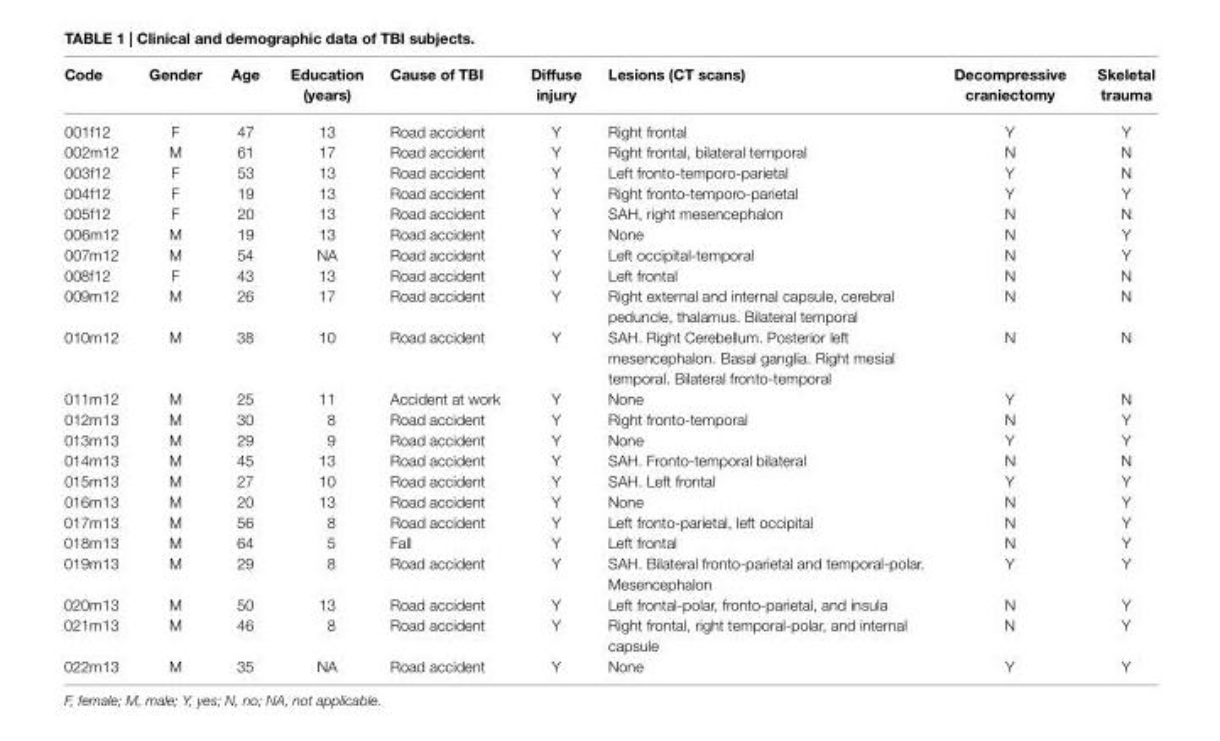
<table><thead><tr><td>code</td><td>gender</td><td>age</td><td>education (years)</td><td>cause of TBi</td><td>Diffuse injury</td><td>lesions (cT scans)</td><td>Decompressive craniectomy</td><td>skeletal trauma</td></tr></thead><tbody><tr><td>001f12</td><td>F</td><td>47</td><td>13</td><td>Road accident</td><td>Y</td><td>Right frontal</td><td>Y</td><td>Y</td></tr><tr><td>002m12</td><td>M</td><td>61</td><td>17</td><td>Road accident</td><td>Y</td><td>Right frontal, bilateral temporal</td><td>N</td><td>N</td></tr><tr><td>003f12</td><td>F</td><td>53</td><td>13</td><td>Road accident</td><td>Y</td><td>Left fronto-temporo-parietal</td><td>Y</td><td>N</td></tr><tr><td>004f12</td><td>F</td><td>19</td><td>13</td><td>Road accident</td><td>Y</td><td>Right fronto-temporo-parietal</td><td>Y</td><td>Y</td></tr><tr><td>005f12</td><td>F</td><td>20</td><td>13</td><td>Road accident</td><td>Y</td><td>SAH, right mesencephalon</td><td>N</td><td>N</td></tr><tr><td>006m12</td><td>M</td><td>19</td><td>13</td><td>Road accident</td><td>Y</td><td>None</td><td>N</td><td>Y</td></tr><tr><td>007m12</td><td>M</td><td>54</td><td>NA</td><td>Road accident</td><td>Y</td><td>Left occipital-temporal</td><td>N</td><td>Y</td></tr><tr><td>008f12</td><td>F</td><td>43</td><td>13</td><td>Road accident</td><td>Y</td><td>Left frontal</td><td>N</td><td>N</td></tr><tr><td>009m12</td><td>M</td><td>26</td><td>17</td><td>Road accident</td><td>Y</td><td>Right external and internal capsule, cerebral peduncle, thalamus. Bilateral temporal</td><td>N</td><td>N</td></tr><tr><td>010m12</td><td>M</td><td>38</td><td>10</td><td>Road accident</td><td>Y</td><td>SAH. Right Cerebellum. Posterior left mesencephalon. Basal ganglia. Right mesial temporal. Bilateral fronto-temporal</td><td>N</td><td>N</td></tr><tr><td>011m12</td><td>M</td><td>25</td><td>11</td><td>Accident at work</td><td>Y</td><td>None</td><td>Y</td><td>N</td></tr><tr><td>012m13</td><td>M</td><td>30</td><td>8</td><td>Road accident</td><td>Y</td><td>Right fronto-temporal</td><td>N</td><td>Y</td></tr><tr><td>013m13</td><td>M</td><td>29</td><td>9</td><td>Road accident</td><td>Y</td><td>None</td><td>Y</td><td>Y</td></tr><tr><td>014m13</td><td>M</td><td>45</td><td>13</td><td>Road accident</td><td>Y</td><td>SAH. Fronto-temporal bilateral</td><td>N</td><td>N</td></tr><tr><td>015m13</td><td>M</td><td>27</td><td>10</td><td>Road accident</td><td>Y</td><td>SAH. Left frontal</td><td>Y</td><td>Y</td></tr><tr><td>016m13</td><td>M</td><td>20</td><td>13</td><td>Road accident</td><td>Y</td><td>None</td><td>N</td><td>Y</td></tr><tr><td>017m13</td><td>M</td><td>56</td><td>8</td><td>Road accident</td><td>Y</td><td>Left fronto-parietal, left occipital</td><td>N</td><td>Y</td></tr><tr><td>018m13</td><td>M</td><td>64</td><td>5</td><td>Fall</td><td>Y</td><td>Left frontal</td><td>N</td><td>Y</td></tr><tr><td>019m13</td><td>M</td><td>29</td><td>8</td><td>Road accident</td><td>Y</td><td>SAH. Bilateral fronto-parietal and temporal-polar. Mesencephalon</td><td>Y</td><td>Y</td></tr><tr><td>020m13</td><td>M</td><td>50</td><td>13</td><td>Road accident</td><td>Y</td><td>Left frontal-polar, fronto-parietal, and insula</td><td>N</td><td>Y</td></tr><tr><td>021m13</td><td>M</td><td>46</td><td>8</td><td>Road accident</td><td>Y</td><td>Right frontal, right temporal-polar, and internal capsule</td><td>N</td><td>Y</td></tr><tr><td>022m13</td><td>M</td><td>35</td><td>NA</td><td>Road accident</td><td>Y</td><td>None</td><td>Y</td><td>Y</td></tr></tbody></table>